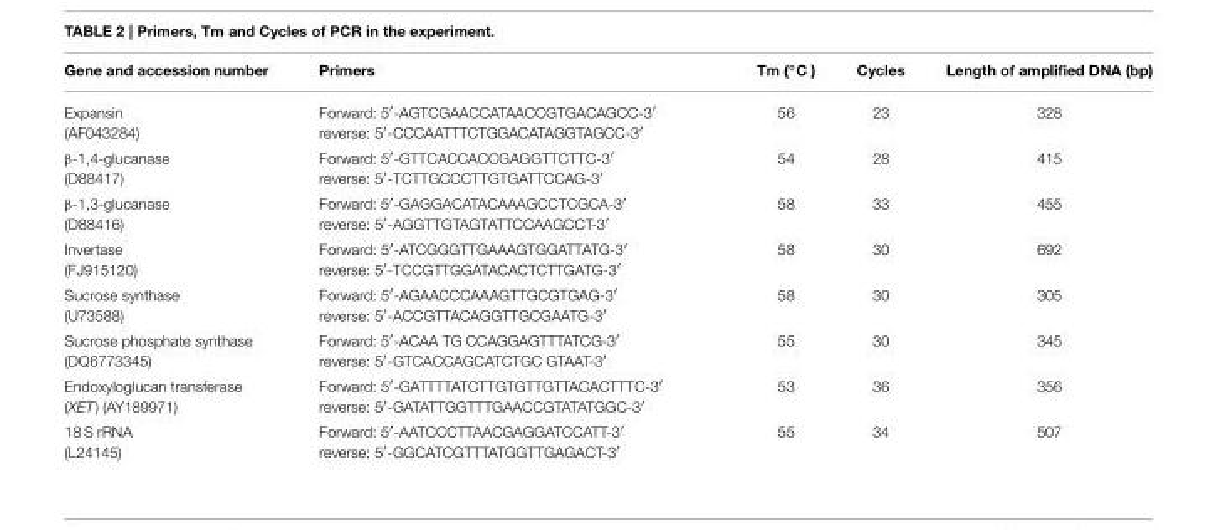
<table><thead><tr><td>Gene and accession number</td><td>Primers</td><td>Tm (◦C )</td><td>Cycles</td><td>Length of amplified DNA (bp)</td></tr></thead><tbody><tr><td>Expansin (AF043284)</td><td>Forward: 5′-AGTCGAACCATAACCGTGACAGCC-3′ reverse: 5′-CCCAATTTCTGGACATAGGTAGCC-3′</td><td>56</td><td>23</td><td>328</td></tr><tr><td>β-1,4-glucanase (D88417)</td><td>Forward: 5′-GTTCACCACCGAGGTTCTTC-3′ reverse: 5′-TCTTGCCCTTGTGATTCCAG-3′</td><td>54</td><td>28</td><td>415</td></tr><tr><td>β-1,3-glucanase (D88416)</td><td>Forward: 5′-GAGGACATACAAAGCCTCGCA-3′ reverse: 5′-AGGTTGTAGTATTCCAAGCCT-3′</td><td>58</td><td>33</td><td>455</td></tr><tr><td>Invertase (FJ915120)</td><td>Forward: 5′-ATCGGGTTGAAAGTGGATTATG-3′ reverse: 5′-TCCGTTGGATACACTCTTGATG-3′</td><td>58</td><td>30</td><td>692</td></tr><tr><td>Sucrose synthase (U73588)</td><td>Forward: 5′-AGAACCCAAAGTTGCGTGAG-3′ reverse: 5′-ACCGTTACAGGTTGCGAATG-3′</td><td>58</td><td>30</td><td>305</td></tr><tr><td>Sucrose phosphate synthase (DQ6773345)</td><td>Forward: 5′-ACAA TG CCAGGAGTTTATCG-3′ reverse: 5′-GTCACCAGCATCTGC GTAAT-3′</td><td>55</td><td>30</td><td>345</td></tr><tr><td>Endoxyloglucan transferase (XET) (AY189971)</td><td>Forward: 5′-GATTTTATCTTGTGTTGTTACACTTTC-3′ reverse: 5′-GATATTGGTTTGAACCGTATATGGC-3′</td><td>53</td><td>36</td><td>356</td></tr><tr><td>18 S rRNA (L24145)</td><td>Forward: 5′-AATCCCTTAACGAGGATCCATT-3′ reverse: 5′-GGCATCGTTTATGGTTGAGACT-3′</td><td>55</td><td>34</td><td>507</td></tr></tbody></table>